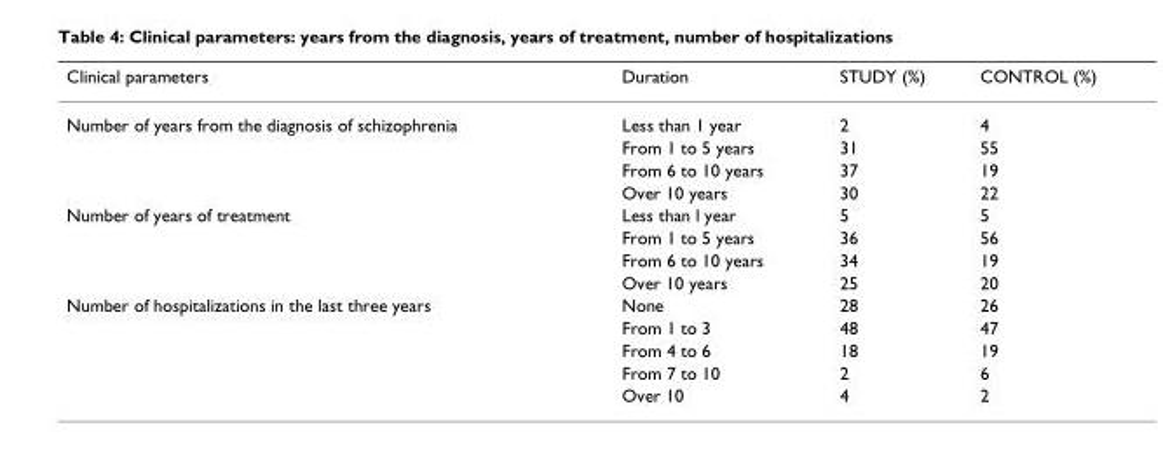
<table><thead><tr><td>Clinical parameters</td><td>Duration</td><td>STUDY (%)</td><td>CONTROL (%)</td></tr></thead><tbody><tr><td rowspan="4">Number of years from the diagnosis of schizophrenia</td><td>Less than 1 year</td><td>2</td><td>4</td></tr><tr><td>From 1 to 5 years</td><td>31</td><td>55</td></tr><tr><td>From 6 to 10 years</td><td>37</td><td>19</td></tr><tr><td>Over 10 years</td><td>30</td><td>22</td></tr><tr><td rowspan="4">Number of years of treatment</td><td>Less than l year</td><td>5</td><td>5</td></tr><tr><td>From 1 to 5 years</td><td>36</td><td>56</td></tr><tr><td>From 6 to 10 years</td><td>34</td><td>19</td></tr><tr><td>Over 10 years</td><td>25</td><td>20</td></tr><tr><td rowspan="5">Number of hospitalizations in the last three years</td><td>None</td><td>28</td><td>26</td></tr><tr><td>From 1 to 3</td><td>48</td><td>47</td></tr><tr><td>From 4 to 6</td><td>18</td><td>19</td></tr><tr><td>From 7 to 10</td><td>2</td><td>6</td></tr><tr><td>Over 10</td><td>4</td><td>2</td></tr></tbody></table>